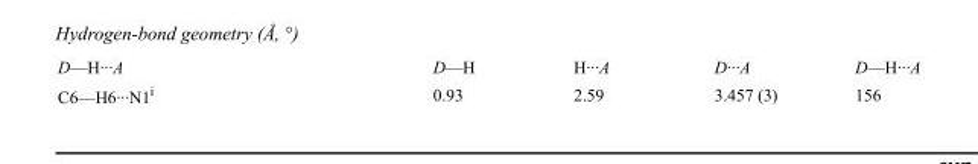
<table><tbody><tr><td>D—H···A</td><td>D—H</td><td>H···A</td><td>D···A</td><td>D—H···A</td></tr><tr><td>C6—H6···N1<sup>i</sup></td><td>0.93</td><td>2.59</td><td>3.457 (3)</td><td>156</td></tr></tbody></table>